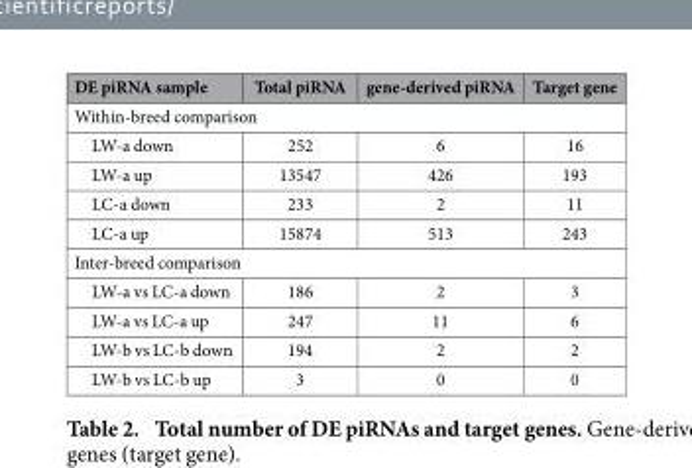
<table><thead><tr><td>DE piRNA sample</td><td>Total piRNA</td><td>gene-derived piRNA</td><td>Target gene</td></tr></thead><tbody><tr><td colspan="4">Within-breed comparison</td></tr><tr><td>LW-a down</td><td>252</td><td>6</td><td>16</td></tr><tr><td>LW-a up</td><td>13547</td><td>426</td><td>193</td></tr><tr><td>LC-a down</td><td>233</td><td>2</td><td>11</td></tr><tr><td>LC-a up</td><td>15874</td><td>513</td><td>243</td></tr><tr><td colspan="4">Inter-breed comparison</td></tr><tr><td>LW-a vs LC-a down</td><td>186</td><td>2</td><td>3</td></tr><tr><td>LW-a vs LC-a up</td><td>247</td><td>11</td><td>6</td></tr><tr><td>LW-b vs LC-b down</td><td>194</td><td>2</td><td>2</td></tr><tr><td>LW-b vs LC-b up</td><td>3</td><td>0</td><td>0</td></tr></tbody></table>